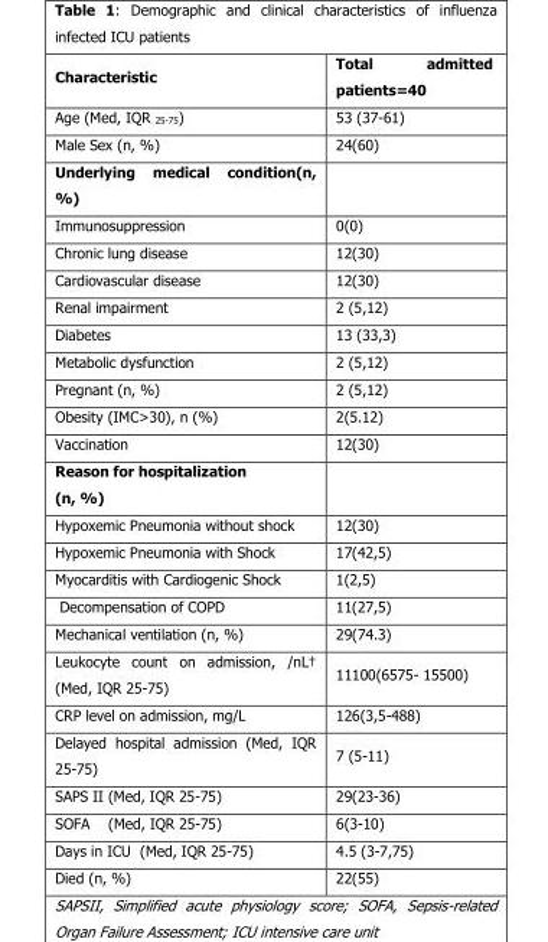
<table><thead><tr><td>Characteristic</td><td>Total admitted patients=40</td></tr></thead><tbody><tr><td>Age (Med, IQR <sub>25-75</sub>)</td><td>53 (37-61)</td></tr><tr><td>Male Sex (n, %)</td><td>24(60)</td></tr><tr><td colspan="2">Underlying medical condition(n, %)</td></tr><tr><td>Immunosuppression</td><td>0(0)</td></tr><tr><td>Chronic lung disease</td><td>12(30)</td></tr><tr><td>Cardiovascular disease</td><td>12(30)</td></tr><tr><td>Renal impairment</td><td>2 (5,12)</td></tr><tr><td>Diabetes</td><td>13 (33,3)</td></tr><tr><td>Metabolic dysfunction</td><td>2 (5,12)</td></tr><tr><td>Pregnant (n, %)</td><td>2 (5,12)</td></tr><tr><td>Obesity (IMC&gt;30), n (%)</td><td>2(5.12)</td></tr><tr><td>Vaccination</td><td>12(30)</td></tr><tr><td colspan="2">Reason for hospitalization (n, %)</td></tr><tr><td>Hypoxemic Pneumonia without shock</td><td>12(30)</td></tr><tr><td>Hypoxemic Pneumonia with Shock</td><td>17(42,5)</td></tr><tr><td>Myocarditis with Cardiogenic Shock</td><td>1(2,5)</td></tr><tr><td>Decompensation of COPD</td><td>11(27,5)</td></tr><tr><td>Mechanical ventilation (n, %)</td><td>29(74.3)</td></tr><tr><td>Leukocyte count on admission, /nL† (Med, IQR 25-75)</td><td>11100(6575- 15500)</td></tr><tr><td>CRP level on admission, mg/L</td><td>126(3,5-488)</td></tr><tr><td>Delayed hospital admission (Med, IQR 25-75)</td><td>7 (5-11)</td></tr><tr><td>SAPS II (Med, IQR 25-75)</td><td>29(23-36)</td></tr><tr><td>SOFA (Med, IQR 25-75)</td><td>6(3-10)</td></tr><tr><td>Days in ICU (Med, IQR 25-75)</td><td>4.5 (3-7,75)</td></tr><tr><td>Died (n, %)</td><td>22(55)</td></tr></tbody></table>